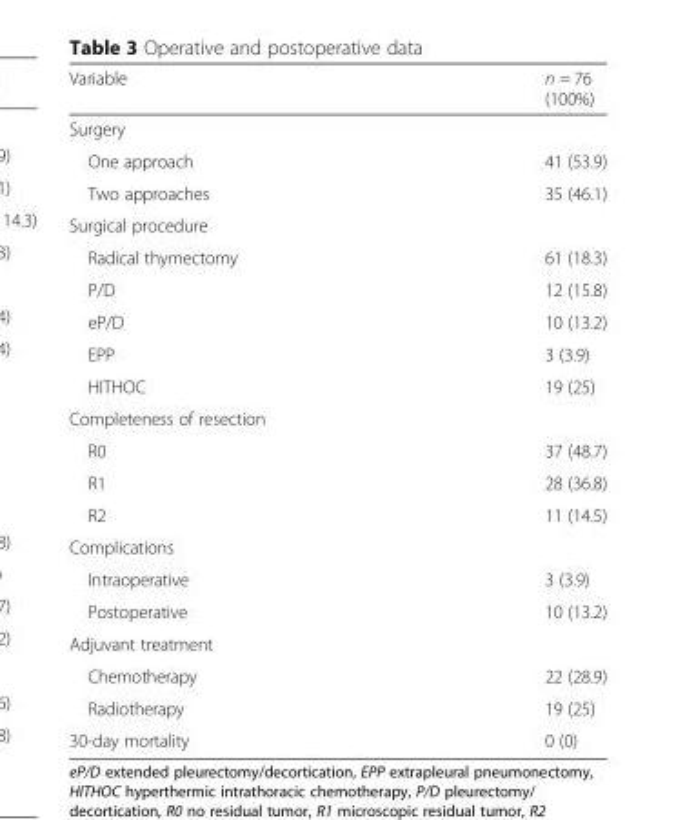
<table><thead><tr><td>Variable</td><td>n = 76 (100%)</td></tr></thead><tbody><tr><td colspan="2">Surgery</td></tr><tr><td>One approach</td><td>41 (53.9)</td></tr><tr><td>Two approaches</td><td>35 (46.1)</td></tr><tr><td colspan="2">Surgical procedure</td></tr><tr><td>Radical thymectomy</td><td>61 (18.3)</td></tr><tr><td>P/D</td><td>12 (15.8)</td></tr><tr><td>eP/D</td><td>10 (13.2)</td></tr><tr><td>EPP</td><td>3 (3.9)</td></tr><tr><td>HITHOC</td><td>19 (25)</td></tr><tr><td colspan="2">Completeness of resection</td></tr><tr><td>R0</td><td>37 (48.7)</td></tr><tr><td>R1</td><td>28 (36.8)</td></tr><tr><td>R2</td><td>11 (14.5)</td></tr><tr><td colspan="2">Complications</td></tr><tr><td>Intraoperative</td><td>3 (3.9)</td></tr><tr><td>Postoperative</td><td>10 (13.2)</td></tr><tr><td colspan="2">Adjuvant treatment</td></tr><tr><td>Chemotherapy</td><td>22 (28.9)</td></tr><tr><td>Radiotherapy</td><td>19 (25)</td></tr><tr><td>30-day mortality</td><td>0 (0)</td></tr></tbody></table>